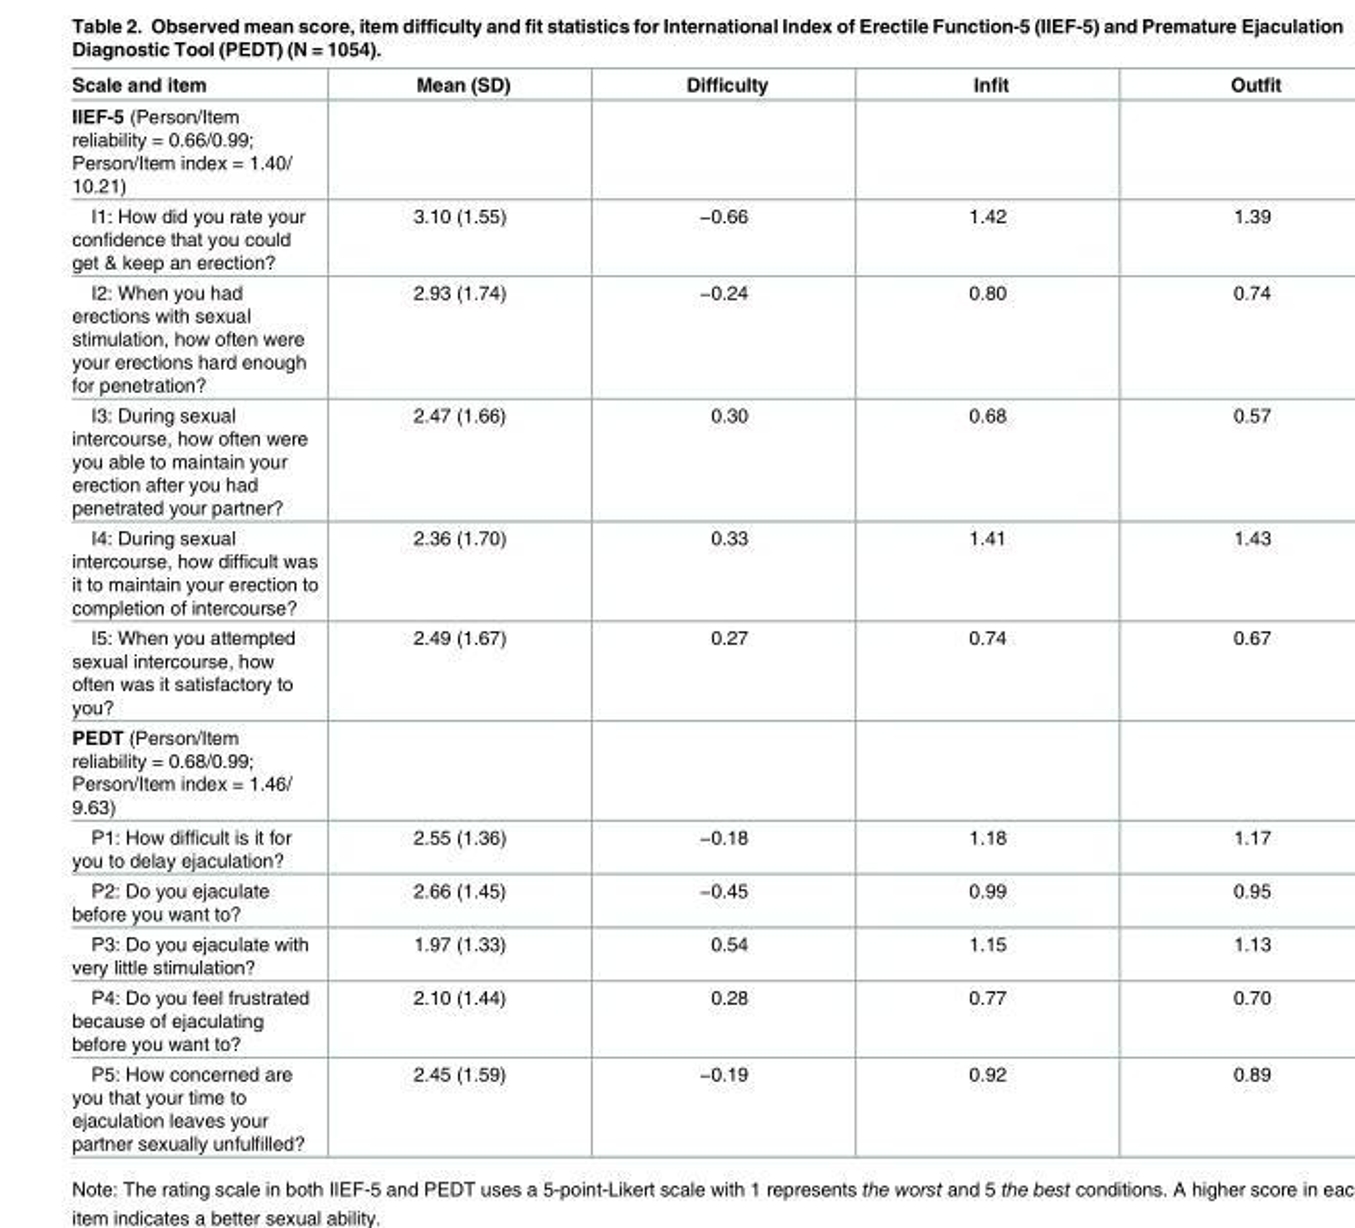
<table><thead><tr><td>Scale and item</td><td>Mean (SD)</td><td>Difficulty</td><td>Infit</td><td>Outfit</td></tr></thead><tbody><tr><td colspan="5">IIEF-5 (Person/Item reliability = 0.66/0.99; Person/Item index = 1.40/ 10.21)</td></tr><tr><td>I1: How did you rate your confidence that you could get &amp; keep an erection?</td><td>3.10 (1.55)</td><td>−0.66</td><td>1.42</td><td>1.39</td></tr><tr><td>I2: When you had erections with sexual stimulation, how often were your erections hard enough for penetration?</td><td>2.93 (1.74)</td><td>−0.24</td><td>0.80</td><td>0.74</td></tr><tr><td>I3: During sexual intercourse, how often were you able to maintain your erection after you had penetrated your partner?</td><td>2.47 (1.66)</td><td>0.30</td><td>0.68</td><td>0.57</td></tr><tr><td>I4: During sexual intercourse, how difficult was it to maintain your erection to completion of intercourse?</td><td>2.36 (1.70)</td><td>0.33</td><td>1.41</td><td>1.43</td></tr><tr><td>I5: When you attempted sexual intercourse, how often was it satisfactory to you?</td><td>2.49 (1.67)</td><td>0.27</td><td>0.74</td><td>0.67</td></tr><tr><td colspan="5">PEDT (Person/Item reliability = 0.68/0.99; Person/Item index = 1.46/ 9.63)</td></tr><tr><td>P1: How difficult is it for you to delay ejaculation?</td><td>2.55 (1.36)</td><td>−0.18</td><td>1.18</td><td>1.17</td></tr><tr><td>P2: Do you ejaculate before you want to?</td><td>2.66 (1.45)</td><td>−0.45</td><td>0.99</td><td>0.95</td></tr><tr><td>P3: Do you ejaculate with very little stimulation?</td><td>1.97 (1.33)</td><td>0.54</td><td>1.15</td><td>1.13</td></tr><tr><td>P4: Do you feel frustrated because of ejaculating before you want to?</td><td>2.10 (1.44)</td><td>0.28</td><td>0.77</td><td>0.70</td></tr><tr><td>P5: How concerned are you that your time to ejaculation leaves your partner sexually unfulfilled?</td><td>2.45 (1.59)</td><td>−0.19</td><td>0.92</td><td>0.89</td></tr></tbody></table>